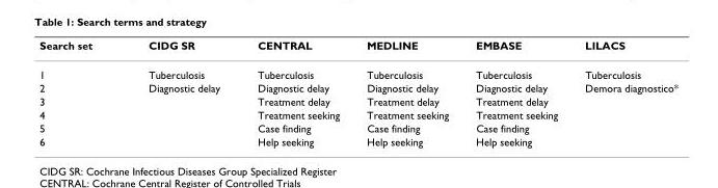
<table><thead><tr><td>Search set</td><td>CIDG SR</td><td>CENTRAL</td><td>MEDLINE</td><td>EMBASE</td><td>LILACS</td></tr></thead><tbody><tr><td>1</td><td>Tuberculosis</td><td>Tuberculosis</td><td>Tuberculosis</td><td>Tuberculosis</td><td>Tuberculosis</td></tr><tr><td>2</td><td>Diagnostic delay</td><td>Diagnostic delay</td><td>Diagnostic delay</td><td>Diagnostic delay</td><td>Demora diagnostico*</td></tr><tr><td>3</td><td></td><td>Treatment delay</td><td>Treatment delay</td><td>Treatment delay</td><td></td></tr><tr><td>4</td><td></td><td>Treatment seeking</td><td>Treatment seeking</td><td>Treatment seeking</td><td></td></tr><tr><td>5</td><td></td><td>Case finding</td><td>Case finding</td><td>Case finding</td><td></td></tr><tr><td>6</td><td></td><td>Help seeking</td><td>Help seeking</td><td>Help seeking</td><td></td></tr></tbody></table>